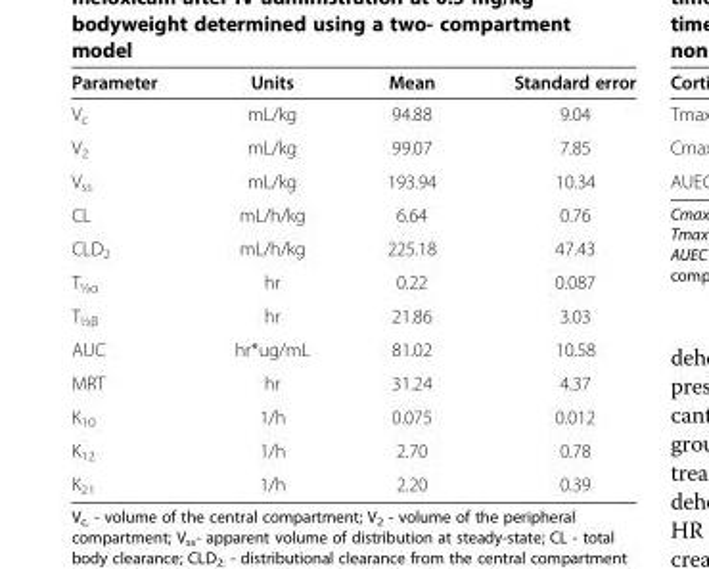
<table><thead><tr><td>Parameter</td><td>Units</td><td>Mean</td><td>Standard error</td></tr></thead><tbody><tr><td>V<sub>c</sub></td><td>mL/kg</td><td>94.88</td><td>9.04</td></tr><tr><td>V<sub>2</sub></td><td>mL/kg</td><td>99.07</td><td>7.85</td></tr><tr><td>V<sub>ss</sub></td><td>mL/kg</td><td>193.94</td><td>10.34</td></tr><tr><td>CL</td><td>mL/h/kg</td><td>6.64</td><td>0.76</td></tr><tr><td>CLD<sub>2</sub></td><td>mL/h/kg</td><td>225.18</td><td>47.43</td></tr><tr><td>T<sub>½α</sub></td><td>hr</td><td>0.22</td><td>0.087</td></tr><tr><td>T<sub>½β</sub></td><td>hr</td><td>21.86</td><td>3.03</td></tr><tr><td>AUC</td><td>hr*ug/mL</td><td>81.02</td><td>10.58</td></tr><tr><td>MRT</td><td>hr</td><td>31.24</td><td>4.37</td></tr><tr><td>K<sub>10</sub></td><td>1/h</td><td>0.075</td><td>0.012</td></tr><tr><td>K<sub>12</sub></td><td>1/h</td><td>2.70</td><td>0.78</td></tr><tr><td>K<sub>21</sub></td><td>1/h</td><td>2.20</td><td>0.39</td></tr></tbody></table>